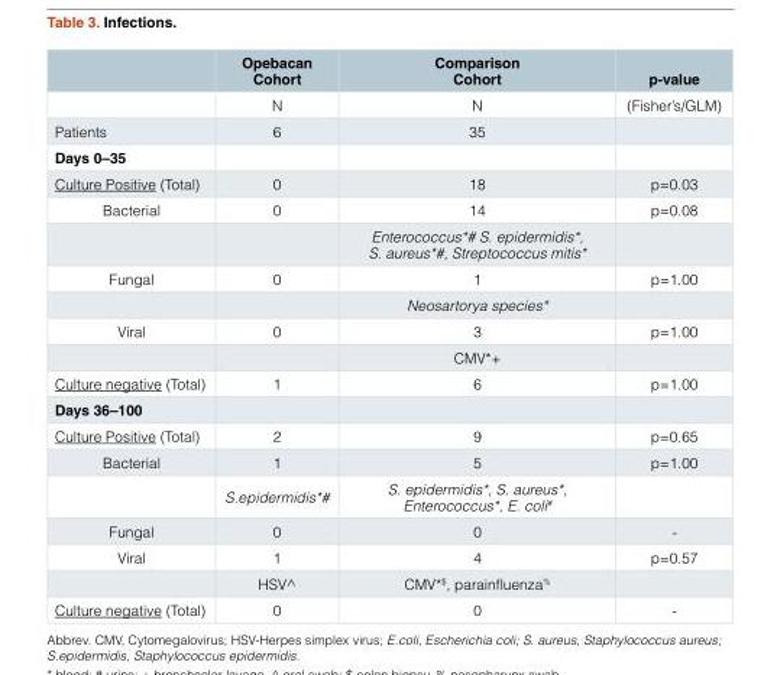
<table><thead><tr><td></td><td>Opebacan Cohort</td><td>Comparison Cohort</td><td>p-value</td></tr></thead><tbody><tr><td></td><td>N</td><td>N</td><td>(Fisher’s/GLM)</td></tr><tr><td>Patients</td><td>6</td><td>35</td><td></td></tr><tr><td colspan="4">Days 0–35</td></tr><tr><td>Culture Positive (Total)</td><td>0</td><td>18</td><td>p=0.03</td></tr><tr><td rowspan="2">Bacterial</td><td>0</td><td>14</td><td>p=0.08</td></tr><tr><td></td><td>Enterococcus*# S. epidermidis*, S. aureus*#, Streptococcus mitis*</td><td></td></tr><tr><td rowspan="2">Fungal</td><td>0</td><td>1</td><td>p=1.00</td></tr><tr><td></td><td>Neosartorya species*</td><td></td></tr><tr><td rowspan="2">Viral</td><td>0</td><td>3</td><td>p=1.00</td></tr><tr><td></td><td>CMV*+</td><td></td></tr><tr><td>Culture negative (Total)</td><td>1</td><td>6</td><td>p=1.00</td></tr><tr><td colspan="4">Days 36–100</td></tr><tr><td>Culture Positive (Total)</td><td>2</td><td>9</td><td>p=0.65</td></tr><tr><td rowspan="2">Bacterial</td><td>1</td><td>5</td><td>p=1.00</td></tr><tr><td>S.epidermidis*#</td><td>S. epidermidis*, S. aureus*, Enterococcus*, E. coli<sup>#</sup></td><td></td></tr><tr><td>Fungal</td><td>0</td><td>0</td><td>-</td></tr><tr><td rowspan="2">Viral</td><td>1</td><td>4</td><td>p=0.57</td></tr><tr><td>HSV^</td><td>CMV*<sup>$</sup>, parainfluenza<sup>%</sup></td><td></td></tr><tr><td>Culture negative (Total)</td><td>0</td><td>0</td><td>-</td></tr></tbody></table>